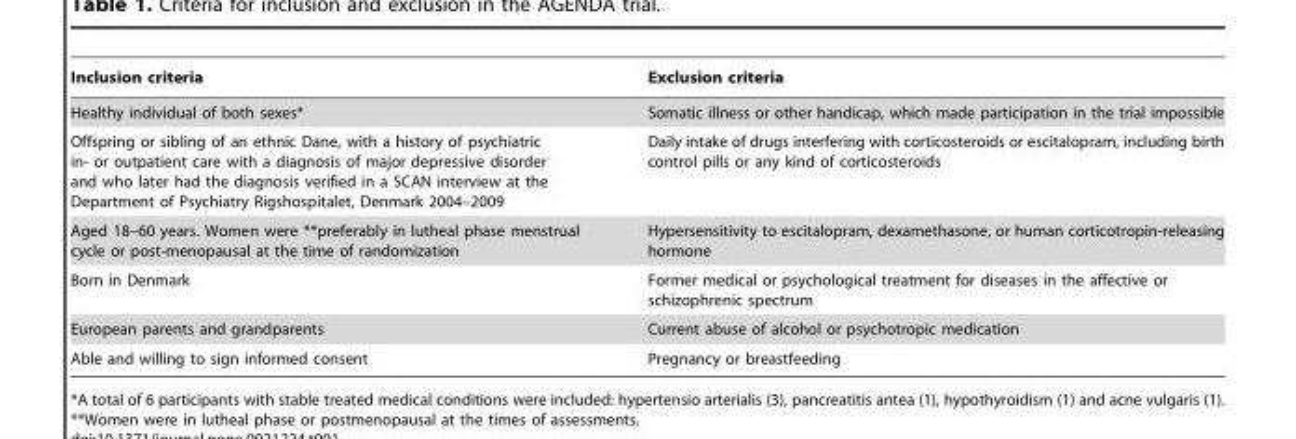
<table><thead><tr><td>Inclusion criteria</td><td>Exclusion criteria</td></tr></thead><tbody><tr><td>Healthy individual of both sexes*</td><td>Somatic illness or other handicap, which made participation in the trial impossible</td></tr><tr><td>Offspring or sibling of an ethnic Dane, with a history of psychiatric in- or outpatient care with a diagnosis of major depressive disorder and who later had the diagnosis verified in a SCAN interview at the Department of Psychiatry Rigshospitalet, Denmark 2004–2009</td><td>Daily intake of drugs interfering with corticosteroids or escitalopram, including birth control pills or any kind of corticosteroids</td></tr><tr><td>Aged 18–60 years. Women were **preferably in lutheal phase menstrual cycle or post-menopausal at the time of randomization</td><td>Hypersensitivity to escitalopram, dexamethasone, or human corticotropin-releasing hormone</td></tr><tr><td>Born in Denmark</td><td>Former medical or psychological treatment for diseases in the affective or schizophrenic spectrum</td></tr><tr><td>European parents and grandparents</td><td>Current abuse of alcohol or psychotropic medication</td></tr><tr><td>Able and willing to sign informed consent</td><td>Pregnancy or breastfeeding</td></tr></tbody></table>